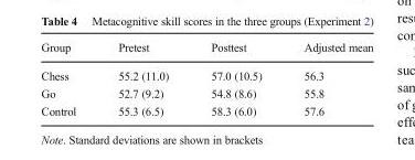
<table><thead><tr><td>Group</td><td>Pretest</td><td>Posttest</td><td>Adjusted mean</td></tr></thead><tbody><tr><td>Chess</td><td>55.2 (11.0)</td><td>57.0 (10.5)</td><td>56.3</td></tr><tr><td>Go</td><td>52.7 (9.2)</td><td>54.8 (8.6)</td><td>55.8</td></tr><tr><td>Control</td><td>55.3 (6.5)</td><td>58.3 (6.0)</td><td>57.6</td></tr></tbody></table>